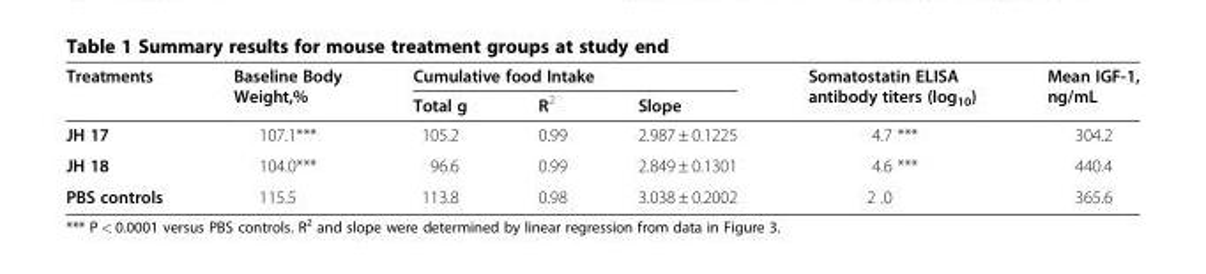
<table><thead><tr><td rowspan="2">Treatments</td><td rowspan="2">Baseline Body Weight,%</td><td colspan="3">Cumulative food Intake</td><td rowspan="2">Somatostatin ELISA antibody titers (log<sub>10</sub>)</td><td rowspan="2">Mean IGF-1, ng/mL</td></tr><tr><td>Total g</td><td>R<sup>2</sup></td><td>Slope</td></tr></thead><tbody><tr><td>JH 17</td><td>107.1***</td><td>105.2</td><td>0.99</td><td>2.987 ± 0.1225</td><td>4.7 ***</td><td>304.2</td></tr><tr><td>JH 18</td><td>104.0***</td><td>96.6</td><td>0.99</td><td>2.849 ± 0.1301</td><td>4.6 ***</td><td>440.4</td></tr><tr><td>PBS controls</td><td>115.5</td><td>113.8</td><td>0.98</td><td>3.038 ± 0.2002</td><td>2 .0</td><td>365.6</td></tr></tbody></table>